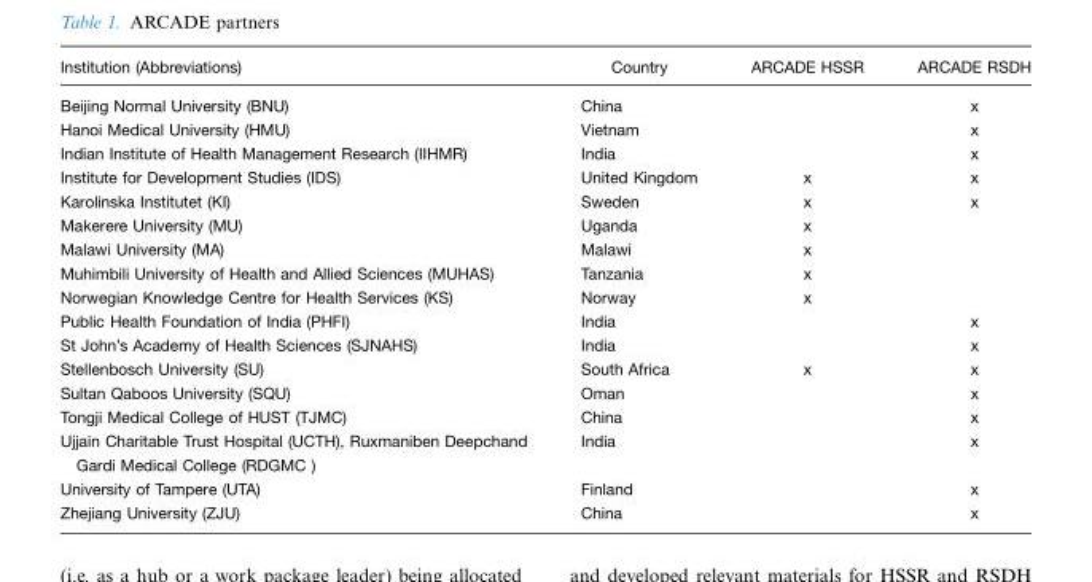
<table><thead><tr><td>Institution (Abbreviations)</td><td>Country</td><td>ARCADE HSSR</td><td>ARCADE RSDH</td></tr></thead><tbody><tr><td>Beijing Normal University (BNU)</td><td>China</td><td></td><td>x</td></tr><tr><td>Hanoi Medical University (HMU)</td><td>Vietnam</td><td></td><td>x</td></tr><tr><td>Indian Institute of Health Management Research (IIHMR)</td><td>India</td><td></td><td>x</td></tr><tr><td>Institute for Development Studies (IDS)</td><td>United Kingdom</td><td>x</td><td>x</td></tr><tr><td>Karolinska Institutet (KI)</td><td>Sweden</td><td>x</td><td>x</td></tr><tr><td>Makerere University (MU)</td><td>Uganda</td><td>x</td><td></td></tr><tr><td>Malawi University (MA)</td><td>Malawi</td><td>x</td><td></td></tr><tr><td>Muhimbili University of Health and Allied Sciences (MUHAS)</td><td>Tanzania</td><td>x</td><td></td></tr><tr><td>Norwegian Knowledge Centre for Health Services (KS)</td><td>Norway</td><td>x</td><td></td></tr><tr><td>Public Health Foundation of India (PHFI)</td><td>India</td><td></td><td>x</td></tr><tr><td>St John’s Academy of Health Sciences (SJNAHS)</td><td>India</td><td></td><td>x</td></tr><tr><td>Stellenbosch University (SU)</td><td>South Africa</td><td>x</td><td>x</td></tr><tr><td>Sultan Qaboos University (SQU)</td><td>Oman</td><td></td><td>x</td></tr><tr><td>Tongji Medical College of HUST (TJMC)</td><td>China</td><td></td><td>x</td></tr><tr><td>Ujjain Charitable Trust Hospital (UCTH), Ruxmaniben Deepchand Gardi Medical College (RDGMC )</td><td>India</td><td></td><td>x</td></tr><tr><td>University of Tampere (UTA)</td><td>Finland</td><td></td><td>x</td></tr><tr><td>Zhejiang University (ZJU)</td><td>China</td><td></td><td>x</td></tr></tbody></table>